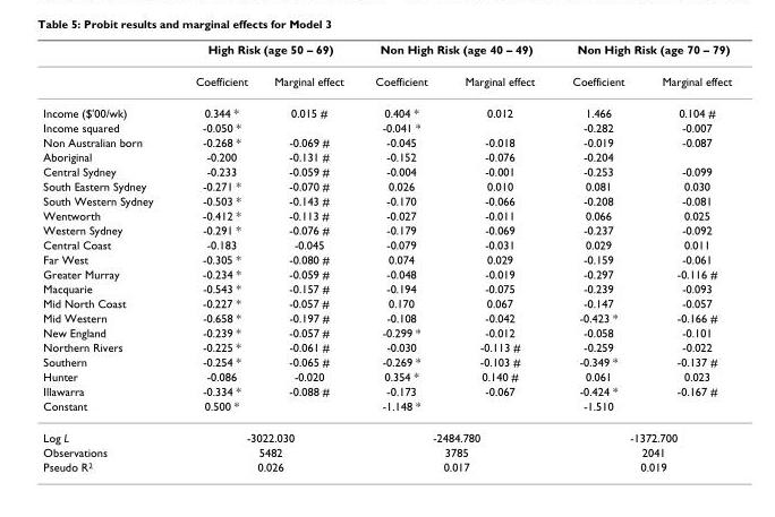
<table><thead><tr><td rowspan="2"></td><td colspan="2">High Risk (age 50 – 69)</td><td colspan="2">Non High Risk (age 40 – 49)</td><td colspan="2">Non High Risk (age 70 – 79)</td></tr><tr><td>Coefficient</td><td>Marginal effect</td><td>Coefficient</td><td>Marginal effect</td><td>Coefficient</td><td>Marginal effect</td></tr></thead><tbody><tr><td>Income ($&#x27;00/wk)</td><td>0.344 *</td><td>0.015 #</td><td>0.404 *</td><td>0.012</td><td>1.466</td><td>0.104 #</td></tr><tr><td>Income squared</td><td>-0.050 *</td><td></td><td>-0.041 *</td><td></td><td>-0.282</td><td>-0.007</td></tr><tr><td>Non Australian born</td><td>-0.268 *</td><td>-0.069 #</td><td>-0.045</td><td>-0.018</td><td>-0.019</td><td>-0.087</td></tr><tr><td>Aboriginal</td><td>-0.200</td><td>-0.131 #</td><td>-0.152</td><td>-0.076</td><td>-0.204</td><td></td></tr><tr><td>Central Sydney</td><td>-0.233</td><td>-0.059 #</td><td>-0.004</td><td>-0.001</td><td>-0.253</td><td>-0.099</td></tr><tr><td>South Eastern Sydney</td><td>-0.271 *</td><td>-0.070 #</td><td>0.026</td><td>0.010</td><td>0.081</td><td>0.030</td></tr><tr><td>South Western Sydney</td><td>-0.503 *</td><td>-0.143 #</td><td>-0.170</td><td>-0.066</td><td>-0.208</td><td>-0.081</td></tr><tr><td>Wentworth</td><td>-0.412 *</td><td>-0.113 #</td><td>-0.027</td><td>-0.011</td><td>0.066</td><td>0.025</td></tr><tr><td>Western Sydney</td><td>-0.291 *</td><td>-0.076 #</td><td>-0.179</td><td>-0.069</td><td>-0.237</td><td>-0.092</td></tr><tr><td>Central Coast</td><td>-0.183</td><td>-0.045</td><td>-0.079</td><td>-0.031</td><td>0.029</td><td>0.011</td></tr><tr><td>Far West</td><td>-0.305 *</td><td>-0.080 #</td><td>0.074</td><td>0.029</td><td>-0.159</td><td>-0.061</td></tr><tr><td>Greater Murray</td><td>-0.234 *</td><td>-0.059 #</td><td>-0.048</td><td>-0.019</td><td>-0.297</td><td>-0.116 #</td></tr><tr><td>Macquarie</td><td>-0.543 *</td><td>-0.157 #</td><td>-0.194</td><td>-0.075</td><td>-0.239</td><td>-0.093</td></tr><tr><td>Mid North Coast</td><td>-0.227 *</td><td>-0.057 #</td><td>0.170</td><td>0.067</td><td>-0.147</td><td>-0.057</td></tr><tr><td>Mid Western</td><td>-0.658 *</td><td>-0.197 #</td><td>-0.108</td><td>-0.042</td><td>-0.423 *</td><td>-0.166 #</td></tr><tr><td>New England</td><td>-0.239 *</td><td>-0.057 #</td><td>-0.299 *</td><td>-0.012</td><td>-0.058</td><td>-0.101</td></tr><tr><td>Northern Rivers</td><td>-0.225 *</td><td>-0.061 #</td><td>-0.030</td><td>-0.113 #</td><td>-0.259</td><td>-0.022</td></tr><tr><td>Southern</td><td>-0.254 *</td><td>-0.065 #</td><td>-0.269 *</td><td>-0.103 #</td><td>-0.349 *</td><td>-0.137 #</td></tr><tr><td>Hunter</td><td>-0.086</td><td>-0.020</td><td>0.354 *</td><td>0.140 #</td><td>0.061</td><td>0.023</td></tr><tr><td>Illawarra</td><td>-0.334 *</td><td>-0.088 #</td><td>-0.173</td><td>-0.067</td><td>-0.424 *</td><td>-0.167 #</td></tr><tr><td>Constant</td><td>0.500 *</td><td></td><td>-1.148 *</td><td></td><td>-1.510</td><td></td></tr><tr><td>Log L</td><td colspan="2">-3022.030</td><td colspan="2">-2484.780</td><td colspan="2">-1372.700</td></tr><tr><td>Observations</td><td colspan="2">5482</td><td colspan="2">3785</td><td colspan="2">2041</td></tr><tr><td>Pseudo R<sup>2</sup></td><td colspan="2">0.026</td><td colspan="2">0.017</td><td colspan="2">0.019</td></tr></tbody></table>